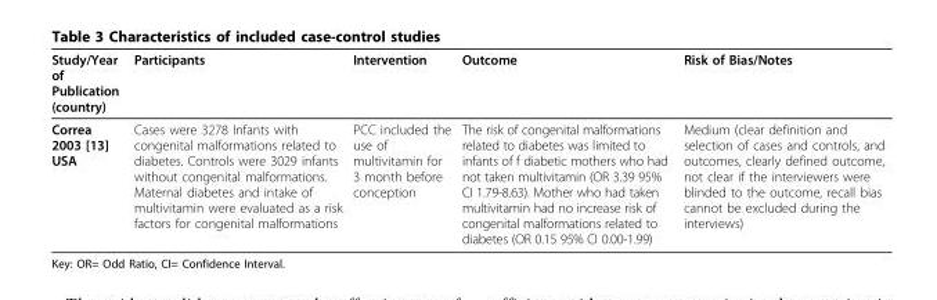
<table><thead><tr><td>Study/Year of Publication (country)</td><td>Participants</td><td>Intervention</td><td>Outcome</td><td>Risk of Bias/Notes</td></tr></thead><tbody><tr><td>Correa 2003 [13] USA</td><td>Cases were 3278 Infants with congenital malformations related to diabetes. Controls were 3029 infants without congenital malformations. Maternal diabetes and intake of multivitamin were evaluated as a risk factors for congenital malformations</td><td>PCC included the use of multivitamin for 3 month before conception</td><td>The risk of congenital malformations related to diabetes was limited to infants of f diabetic mothers who had not taken multivitamin (OR 3.39 95% CI 1.79-8.63). Mother who had taken multivitamin had no increase risk of congenital malformations related to diabetes (OR 0.15 95% CI 0.00-1.99)</td><td>Medium (clear definition and selection of cases and controls, and outcomes, clearly defined outcome, not clear if the interviewers were blinded to the outcome, recall bias cannot be excluded during the interviews)</td></tr></tbody></table>